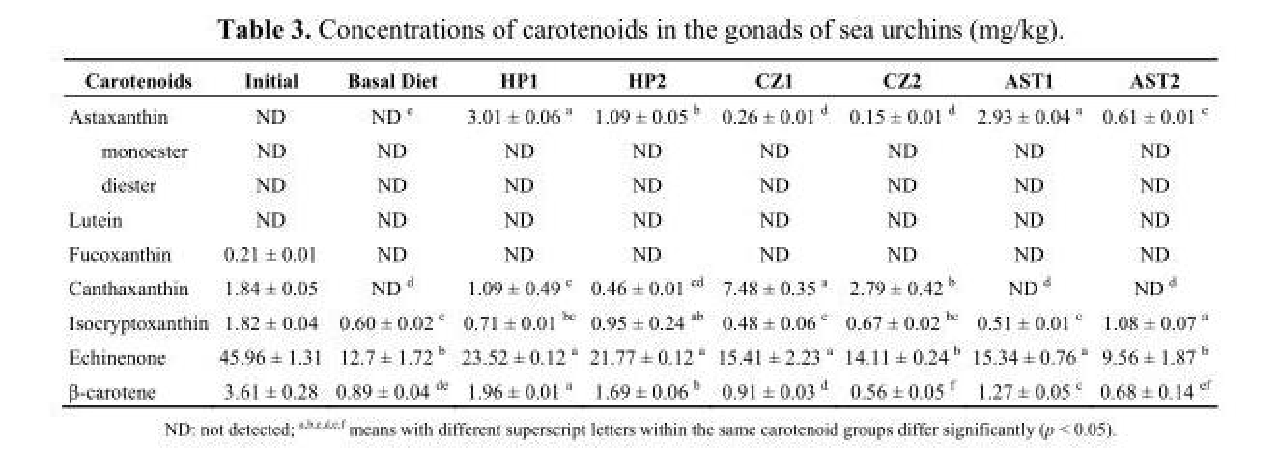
<table><thead><tr><td>Carotenoids</td><td>Initial</td><td>Basal Diet</td><td>HP1</td><td>HP2</td><td>CZ1</td><td>CZ2</td><td>AST1</td><td>AST2</td></tr></thead><tbody><tr><td>Astaxanthin</td><td>ND</td><td>ND <sup>e</sup></td><td>3.01 ± 0.06 <sup>a</sup></td><td>1.09 ± 0.05 <sup>b</sup></td><td>0.26 ± 0.01 <sup>d</sup></td><td>0.15 ± 0.01 <sup>d</sup></td><td>2.93 ± 0.04 <sup>a</sup></td><td>0.61 ± 0.01 <sup>c</sup></td></tr><tr><td>monoester</td><td>ND</td><td>ND</td><td>ND</td><td>ND</td><td>ND</td><td>ND</td><td>ND</td><td>ND</td></tr><tr><td>diester</td><td>ND</td><td>ND</td><td>ND</td><td>ND</td><td>ND</td><td>ND</td><td>ND</td><td>ND</td></tr><tr><td>Lutein</td><td>ND</td><td>ND</td><td>ND</td><td>ND</td><td>ND</td><td>ND</td><td>ND</td><td>ND</td></tr><tr><td>Fucoxanthin</td><td>0.21 ± 0.01</td><td>ND</td><td>ND</td><td>ND</td><td>ND</td><td>ND</td><td>ND</td><td>ND</td></tr><tr><td>Canthaxanthin</td><td>1.84 ± 0.05</td><td>ND <sup>d</sup></td><td>1.09 ± 0.49 <sup>c</sup></td><td>0.46 ± 0.01 <sup>cd</sup></td><td>7.48 ± 0.35 <sup>a</sup></td><td>2.79 ± 0.42 <sup>b</sup></td><td>ND <sup>d</sup></td><td>ND <sup>d</sup></td></tr><tr><td>Isocryptoxanthin</td><td>1.82 ± 0.04</td><td>0.60 ± 0.02 <sup>c</sup></td><td>0.71 ± 0.01 <sup>bc</sup></td><td>0.95 ± 0.24 <sup>ab</sup></td><td>0.48 ± 0.06 <sup>c</sup></td><td>0.67 ± 0.02 <sup>bc</sup></td><td>0.51 ± 0.01 <sup>c</sup></td><td>1.08 ± 0.07 <sup>a</sup></td></tr><tr><td>Echinenone</td><td>45.96 ± 1.31</td><td>12.7 ± 1.72 <sup>b</sup></td><td>23.52 ± 0.12 <sup>a</sup></td><td>21.77 ± 0.12 <sup>a</sup></td><td>15.41 ± 2.23 <sup>a</sup></td><td>14.11 ± 0.24 <sup>b</sup></td><td>15.34 ± 0.76 <sup>a</sup></td><td>9.56 ± 1.87 <sup>b</sup></td></tr><tr><td>β-carotene</td><td>3.61 ± 0.28</td><td>0.89 ± 0.04 <sup>de</sup></td><td>1.96 ± 0.01 <sup>a</sup></td><td>1.69 ± 0.06 <sup>b</sup></td><td>0.91 ± 0.03 <sup>d</sup></td><td>0.56 ± 0.05 <sup>f</sup></td><td>1.27 ± 0.05 <sup>c</sup></td><td>0.68 ± 0.14 <sup>ef</sup></td></tr></tbody></table>